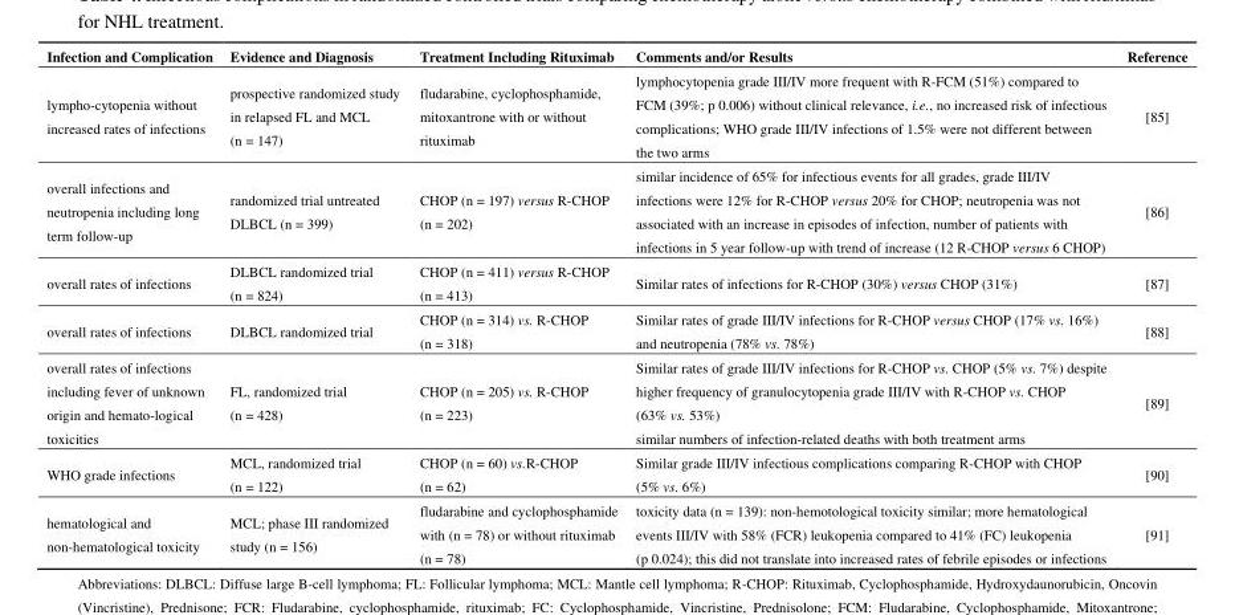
<table><thead><tr><td>Infection and Complication</td><td>Evidence and Diagnosis</td><td>Treatment Including Rituximab</td><td>Comments and/or Results</td><td>Reference</td></tr></thead><tbody><tr><td>lympho-cytopenia without increased rates of infections</td><td>prospective randomized study in relapsed FL and MCL (n = 147)</td><td>fludarabine, cyclophosphamide, mitoxantrone with or without rituximab</td><td>lymphocytopenia grade III/IV more frequent with R-FCM (51%) compared to FCM (39%; p 0.006) without clinical relevance, i.e., no increased risk of infectious complications; WHO grade III/IV infections of 1.5% were not different between the two arms</td><td>[85]</td></tr><tr><td>overall infections and neutropenia including long term follow-up</td><td>randomized trial untreated DLBCL (n = 399)</td><td>CHOP (n = 197) versus R-CHOP (n = 202)</td><td>similar incidence of 65% for infectious events for all grades, grade III/IV infections were 12% for R-CHOP versus 20% for CHOP; neutropenia was not associated with an increase in episodes of infection, number of patients with infections in 5 year follow-up with trend of increase (12 R-CHOP versus 6 CHOP)</td><td>[86]</td></tr><tr><td>overall rates of infections</td><td>DLBCL randomized trial (n = 824)</td><td>CHOP (n = 411) versus R-CHOP (n = 413)</td><td>Similar rates of infections for R-CHOP (30%) versus CHOP (31%)</td><td>[87]</td></tr><tr><td>overall rates of infections</td><td>DLBCL randomized trial</td><td>CHOP (n = 314) vs. R-CHOP (n = 318)</td><td>Similar rates of grade III/IV infections for R-CHOP versus CHOP (17% vs. 16%) and neutropenia (78% vs. 78%)</td><td>[88]</td></tr><tr><td>overall rates of infections including fever of unknown origin and hemato-logical toxicities</td><td>FL, randomized trial (n = 428)</td><td>CHOP (n = 205) vs. R-CHOP (n = 223)</td><td>Similar rates of grade III/IV infections for R-CHOP vs. CHOP (5% vs. 7%) despite higher frequency of granulocytopenia grade III/IV with R-CHOP vs. CHOP (63% vs. 53%) similar numbers of infection-related deaths with both treatment arms</td><td>[89]</td></tr><tr><td>WHO grade infections</td><td>MCL, randomized trial (n = 122)</td><td>CHOP (n = 60) vs.R-CHOP (n = 62)</td><td>Similar grade III/IV infectious complications comparing R-CHOP with CHOP (5% vs. 6%)</td><td>[90]</td></tr><tr><td>hematological and non-hematological toxicity</td><td>MCL; phase III randomized study (n = 156)</td><td>fludarabine and cyclophosphamide with (n = 78) or without rituximab (n = 78)</td><td>toxicity data (n = 139): non-hemotological toxicity similar; more hematological events III/IV with 58% (FCR) leukopenia compared to 41% (FC) leukopenia (p 0.024); this did not translate into increased rates of febrile episodes or infections</td><td>[91]</td></tr></tbody></table>